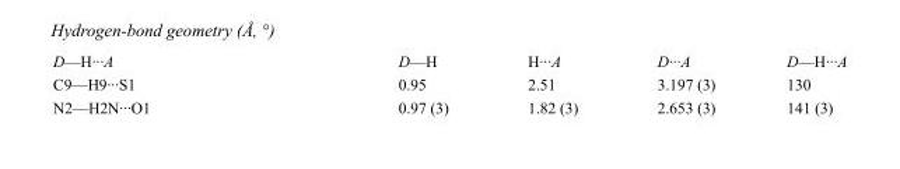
<table><tbody><tr><td>D—H···A</td><td>D—H</td><td>H···A</td><td>D···A</td><td>D—H···A</td></tr><tr><td>C9—H9···S1</td><td>0.95</td><td>2.51</td><td>3.197 (3)</td><td>130</td></tr><tr><td>N2—H2N···O1</td><td>0.97 (3)</td><td>1.82 (3)</td><td>2.653 (3)</td><td>141 (3)</td></tr></tbody></table>